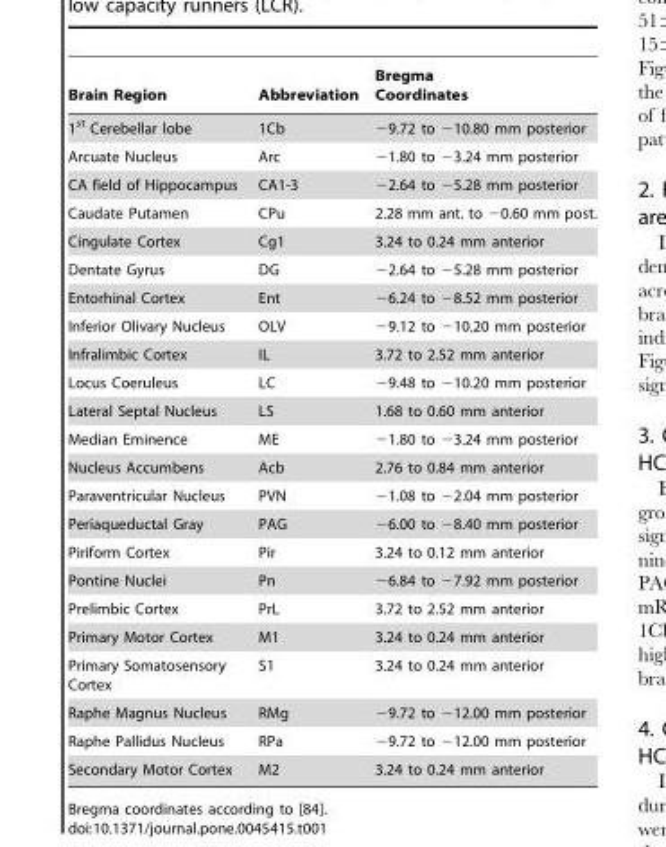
<table><thead><tr><td>Brain Region</td><td>Abbreviation</td><td>Bregma Coordinates</td></tr></thead><tbody><tr><td>1<sup>st</sup> Cerebellar lobe</td><td>1Cb</td><td>−9.72 to −10.80 mm posterior</td></tr><tr><td>Arcuate Nucleus</td><td>Arc</td><td>−1.80 to −3.24 mm posterior</td></tr><tr><td>CA field of Hippocampus</td><td>CA1-3</td><td>−2.64 to −5.28 mm posterior</td></tr><tr><td>Caudate Putamen</td><td>CPu</td><td>2.28 mm ant. to −0.60 mm post.</td></tr><tr><td>Cingulate Cortex</td><td>Cg1</td><td>3.24 to 0.24 mm anterior</td></tr><tr><td>Dentate Gyrus</td><td>DG</td><td>−2.64 to −5.28 mm posterior</td></tr><tr><td>Entorhinal Cortex</td><td>Ent</td><td>−6.24 to −8.52 mm posterior</td></tr><tr><td>Inferior Olivary Nucleus</td><td>OLV</td><td>−9.12 to −10.20 mm posterior</td></tr><tr><td>Infralimbic Cortex</td><td>IL</td><td>3.72 to 2.52 mm anterior</td></tr><tr><td>Locus Coeruleus</td><td>LC</td><td>−9.48 to −10.20 mm posterior</td></tr><tr><td>Lateral Septal Nucleus</td><td>LS</td><td>1.68 to 0.60 mm anterior</td></tr><tr><td>Median Eminence</td><td>ME</td><td>−1.80 to −3.24 mm posterior</td></tr><tr><td>Nucleus Accumbens</td><td>Acb</td><td>2.76 to 0.84 mm anterior</td></tr><tr><td>Paraventricular Nucleus</td><td>PVN</td><td>−1.08 to −2.04 mm posterior</td></tr><tr><td>Periaqueductal Gray</td><td>PAG</td><td>−6.00 to −8.40 mm posterior</td></tr><tr><td>Piriform Cortex</td><td>Pir</td><td>3.24 to 0.12 mm anterior</td></tr><tr><td>Pontine Nuclei</td><td>Pn</td><td>−6.84 to −7.92 mm posterior</td></tr><tr><td>Prelimbic Cortex</td><td>PrL</td><td>3.72 to 2.52 mm anterior</td></tr><tr><td>Primary Motor Cortex</td><td>M1</td><td>3.24 to 0.24 mm anterior</td></tr><tr><td>Primary Somatosensory Cortex</td><td>S1</td><td>3.24 to 0.24 mm anterior</td></tr><tr><td>Raphe Magnus Nucleus</td><td>RMg</td><td>−9.72 to −12.00 mm posterior</td></tr><tr><td>Raphe Pallidus Nucleus</td><td>RPa</td><td>−9.72 to −12.00 mm posterior</td></tr><tr><td>Secondary Motor Cortex</td><td>M2</td><td>3.24 to 0.24 mm anterior</td></tr></tbody></table>